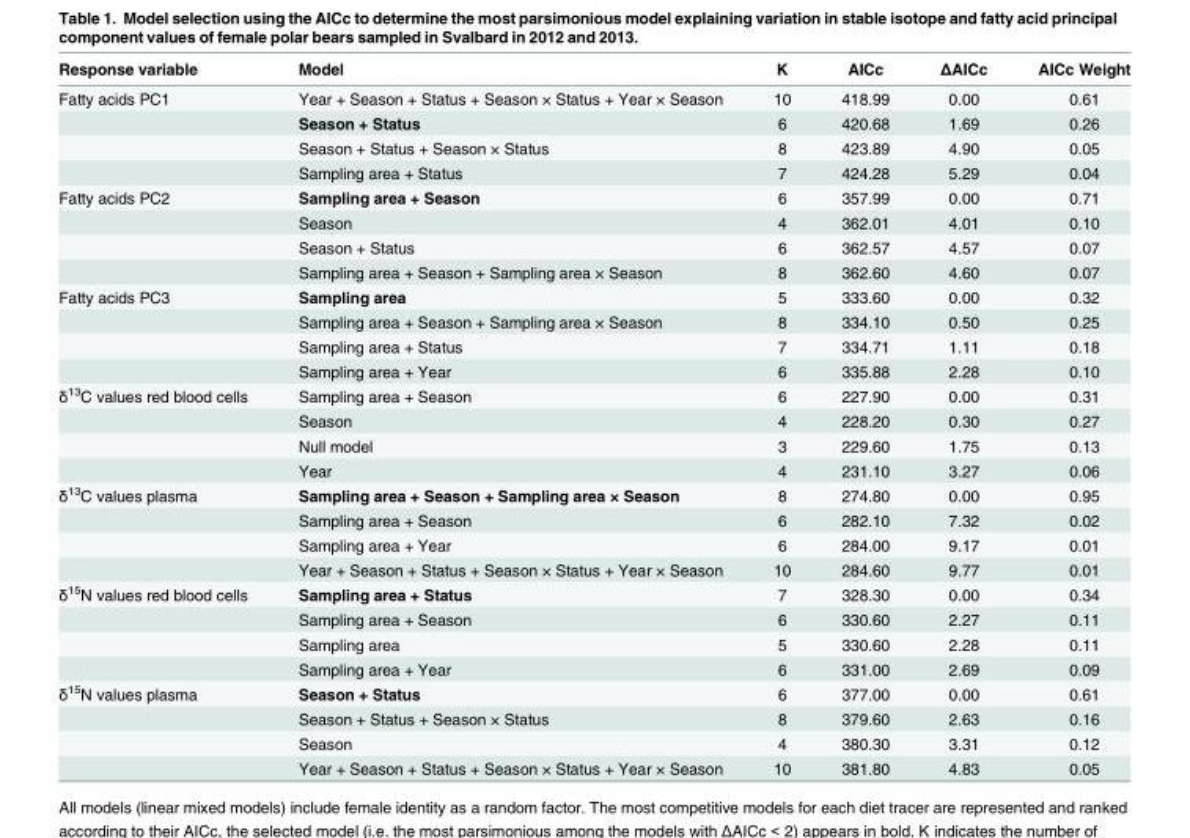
<table><thead><tr><td>Response variable</td><td>Model</td><td>K</td><td>AICc</td><td>ΔAICc</td><td>AICc Weight</td></tr></thead><tbody><tr><td rowspan="4">Fatty acids PC1</td><td>Year + Season + Status + Season × Status + Year × Season</td><td>10</td><td>418.99</td><td>0.00</td><td>0.61</td></tr><tr><td>Season + Status</td><td>6</td><td>420.68</td><td>1.69</td><td>0.26</td></tr><tr><td>Season + Status + Season × Status</td><td>8</td><td>423.89</td><td>4.90</td><td>0.05</td></tr><tr><td>Sampling area + Status</td><td>7</td><td>424.28</td><td>5.29</td><td>0.04</td></tr><tr><td rowspan="4">Fatty acids PC2</td><td>Sampling area + Season</td><td>6</td><td>357.99</td><td>0.00</td><td>0.71</td></tr><tr><td>Season</td><td>4</td><td>362.01</td><td>4.01</td><td>0.10</td></tr><tr><td>Season + Status</td><td>6</td><td>362.57</td><td>4.57</td><td>0.07</td></tr><tr><td>Sampling area + Season + Sampling area × Season</td><td>8</td><td>362.60</td><td>4.60</td><td>0.07</td></tr><tr><td rowspan="4">Fatty acids PC3</td><td>Sampling area</td><td>5</td><td>333.60</td><td>0.00</td><td>0.32</td></tr><tr><td>Sampling area + Season + Sampling area × Season</td><td>8</td><td>334.10</td><td>0.50</td><td>0.25</td></tr><tr><td>Sampling area + Status</td><td>7</td><td>334.71</td><td>1.11</td><td>0.18</td></tr><tr><td>Sampling area + Year</td><td>6</td><td>335.88</td><td>2.28</td><td>0.10</td></tr><tr><td rowspan="4">δ<sup>13</sup>C values red blood cells</td><td>Sampling area + Season</td><td>6</td><td>227.90</td><td>0.00</td><td>0.31</td></tr><tr><td>Season</td><td>4</td><td>228.20</td><td>0.30</td><td>0.27</td></tr><tr><td>Null model</td><td>3</td><td>229.60</td><td>1.75</td><td>0.13</td></tr><tr><td>Year</td><td>4</td><td>231.10</td><td>3.27</td><td>0.06</td></tr><tr><td rowspan="4">δ<sup>13</sup>C values plasma</td><td>Sampling area + Season + Sampling area × Season</td><td>8</td><td>274.80</td><td>0.00</td><td>0.95</td></tr><tr><td>Sampling area + Season</td><td>6</td><td>282.10</td><td>7.32</td><td>0.02</td></tr><tr><td>Sampling area + Year</td><td>6</td><td>284.00</td><td>9.17</td><td>0.01</td></tr><tr><td>Year + Season + Status + Season × Status + Year × Season</td><td>10</td><td>284.60</td><td>9.77</td><td>0.01</td></tr><tr><td rowspan="4">δ<sup>15</sup>N values red blood cells</td><td>Sampling area + Status</td><td>7</td><td>328.30</td><td>0.00</td><td>0.34</td></tr><tr><td>Sampling area + Season</td><td>6</td><td>330.60</td><td>2.27</td><td>0.11</td></tr><tr><td>Sampling area</td><td>5</td><td>330.60</td><td>2.28</td><td>0.11</td></tr><tr><td>Sampling area + Year</td><td>6</td><td>331.00</td><td>2.69</td><td>0.09</td></tr><tr><td rowspan="4">δ<sup>15</sup>N values plasma</td><td>Season + Status</td><td>6</td><td>377.00</td><td>0.00</td><td>0.61</td></tr><tr><td>Season + Status + Season × Status</td><td>8</td><td>379.60</td><td>2.63</td><td>0.16</td></tr><tr><td>Season</td><td>4</td><td>380.30</td><td>3.31</td><td>0.12</td></tr><tr><td>Year + Season + Status + Season × Status + Year × Season</td><td>10</td><td>381.80</td><td>4.83</td><td>0.05</td></tr></tbody></table>